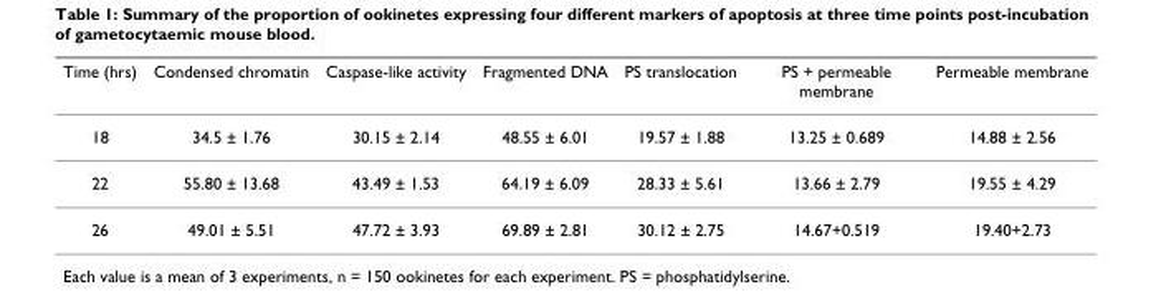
<table><thead><tr><td>Time (hrs)</td><td>Condensed chromatin</td><td>Caspase-like activity</td><td>Fragmented DNA</td><td>PS translocation</td><td>PS + permeable membrane</td><td>Permeable membrane</td></tr></thead><tbody><tr><td>18</td><td>34.5 ± 1.76</td><td>30.15 ± 2.14</td><td>48.55 ± 6.01</td><td>19.57 ± 1.88</td><td>13.25 ± 0.689</td><td>14.88 ± 2.56</td></tr><tr><td>22</td><td>55.80 ± 13.68</td><td>43.49 ± 1.53</td><td>64.19 ± 6.09</td><td>28.33 ± 5.61</td><td>13.66 ± 2.79</td><td>19.55 ± 4.29</td></tr><tr><td>26</td><td>49.01 ± 5.51</td><td>47.72 ± 3.93</td><td>69.89 ± 2.81</td><td>30.12 ± 2.75</td><td>14.67+0.519</td><td>19.40+2.73</td></tr></tbody></table>